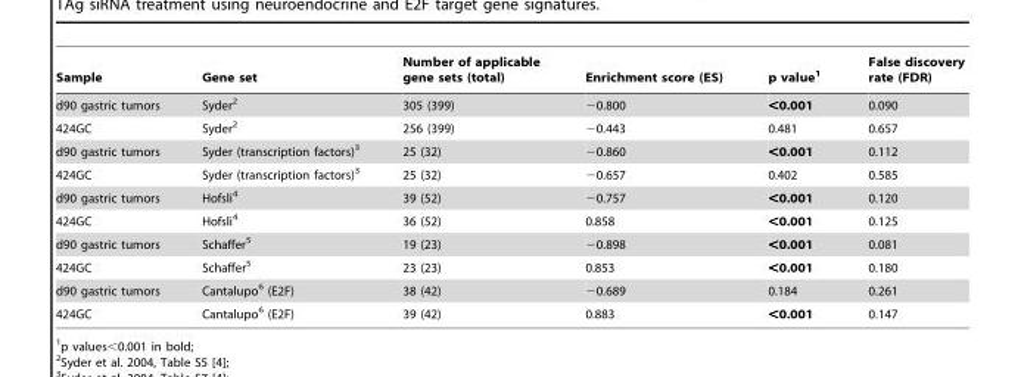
<table><thead><tr><td>Sample</td><td>Gene set</td><td>Number of applicable gene sets (total)</td><td>Enrichment score (ES)</td><td>p value<sup>1</sup></td><td>False discovery rate (FDR)</td></tr></thead><tbody><tr><td>d90 gastric tumors</td><td>Syder<sup>2</sup></td><td>305 (399)</td><td>−0.800</td><td>&lt;0.001</td><td>0.090</td></tr><tr><td>424GC</td><td>Syder<sup>2</sup></td><td>256 (399)</td><td>−0.443</td><td>0.481</td><td>0.657</td></tr><tr><td>d90 gastric tumors</td><td>Syder (transcription factors)<sup>3</sup></td><td>25 (32)</td><td>−0.860</td><td>&lt;0.001</td><td>0.112</td></tr><tr><td>424GC</td><td>Syder (transcription factors)<sup>3</sup></td><td>25 (32)</td><td>−0.657</td><td>0.402</td><td>0.585</td></tr><tr><td>d90 gastric tumors</td><td>Hofsli<sup>4</sup></td><td>39 (52)</td><td>−0.757</td><td>&lt;0.001</td><td>0.120</td></tr><tr><td>424GC</td><td>Hofsli<sup>4</sup></td><td>36 (52)</td><td>0.858</td><td>&lt;0.001</td><td>0.125</td></tr><tr><td>d90 gastric tumors</td><td>Schaffer<sup>5</sup></td><td>19 (23)</td><td>−0.898</td><td>&lt;0.001</td><td>0.081</td></tr><tr><td>424GC</td><td>Schaffer<sup>5</sup></td><td>23 (23)</td><td>0.853</td><td>&lt;0.001</td><td>0.180</td></tr><tr><td>d90 gastric tumors</td><td>Cantalupo<sup>6</sup> (E2F)</td><td>38 (42)</td><td>−0.689</td><td>0.184</td><td>0.261</td></tr><tr><td>424GC</td><td>Cantalupo<sup>6</sup> (E2F)</td><td>39 (42)</td><td>0.883</td><td>&lt;0.001</td><td>0.147</td></tr></tbody></table>